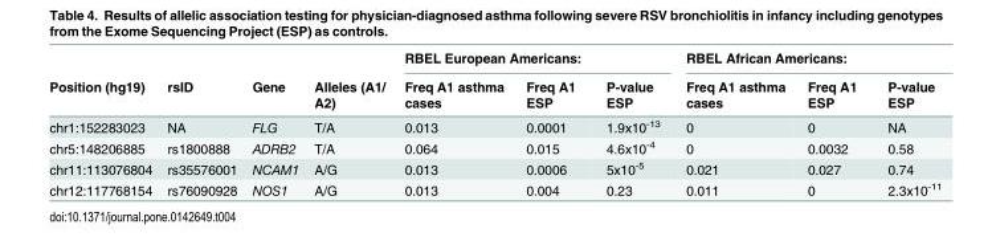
<table><thead><tr><td rowspan="2">Position (hg19)</td><td rowspan="2">rsID</td><td rowspan="2">Gene</td><td rowspan="2">Alleles (A1/ A2)</td><td colspan="3">RBEL European Americans:</td><td colspan="3">RBEL African Americans:</td></tr><tr><td>Freq A1 asthma cases</td><td>Freq A1 ESP</td><td>P-value ESP</td><td>Freq A1 asthma cases</td><td>Freq A1 ESP</td><td>P-value ESP</td></tr></thead><tbody><tr><td>chr1:152283023</td><td>NA</td><td>FLG</td><td>T/A</td><td>0.013</td><td>0.0001</td><td>1.9x10<sup>-13</sup></td><td>0</td><td>0</td><td>NA</td></tr><tr><td>chr5:148206885</td><td>rs1800888</td><td>ADRB2</td><td>T/A</td><td>0.064</td><td>0.015</td><td>4.6x10<sup>-4</sup></td><td>0</td><td>0.0032</td><td>0.58</td></tr><tr><td>chr11:113076804</td><td>rs35576001</td><td>NCAM1</td><td>A/G</td><td>0.013</td><td>0.0006</td><td>5x10<sup>-5</sup></td><td>0.021</td><td>0.027</td><td>0.74</td></tr><tr><td>chr12:117768154</td><td>rs76090928</td><td>NOS1</td><td>A/G</td><td>0.013</td><td>0.004</td><td>0.23</td><td>0.011</td><td>0</td><td>2.3x10<sup>-11</sup></td></tr></tbody></table>